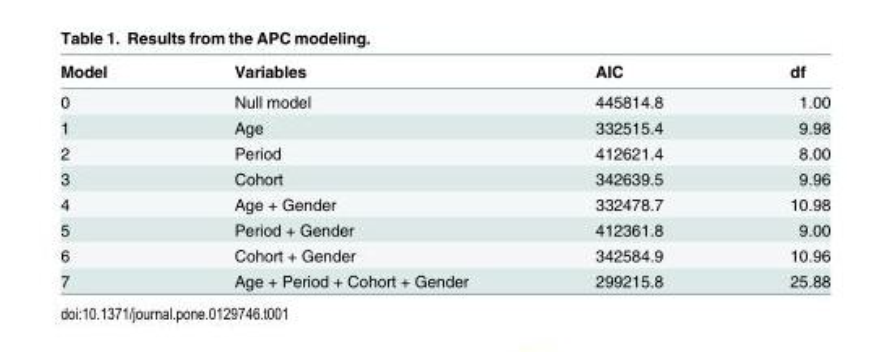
<table><thead><tr><td>Model</td><td>Variables</td><td>AIC</td><td>df</td></tr></thead><tbody><tr><td>0</td><td>Null model</td><td>445814.8</td><td>1.00</td></tr><tr><td>1</td><td>Age</td><td>332515.4</td><td>9.98</td></tr><tr><td>2</td><td>Period</td><td>412621.4</td><td>8.00</td></tr><tr><td>3</td><td>Cohort</td><td>342639.5</td><td>9.96</td></tr><tr><td>4</td><td>Age + Gender</td><td>332478.7</td><td>10.98</td></tr><tr><td>5</td><td>Period + Gender</td><td>412361.8</td><td>9.00</td></tr><tr><td>6</td><td>Cohort + Gender</td><td>342584.9</td><td>10.96</td></tr><tr><td>7</td><td>Age + Period + Cohort + Gender</td><td>299215.8</td><td>25.88</td></tr></tbody></table>